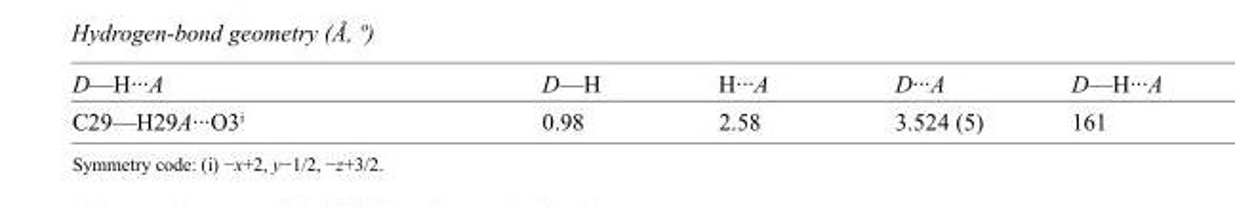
<table><tbody><tr><td>D—H···A</td><td>D—H</td><td>H···A</td><td>D···A</td><td>D—H···A</td></tr><tr><td>C29—H29A···O3<sup>i</sup></td><td>0.98</td><td>2.58</td><td>3.524 (5)</td><td>161</td></tr></tbody></table>